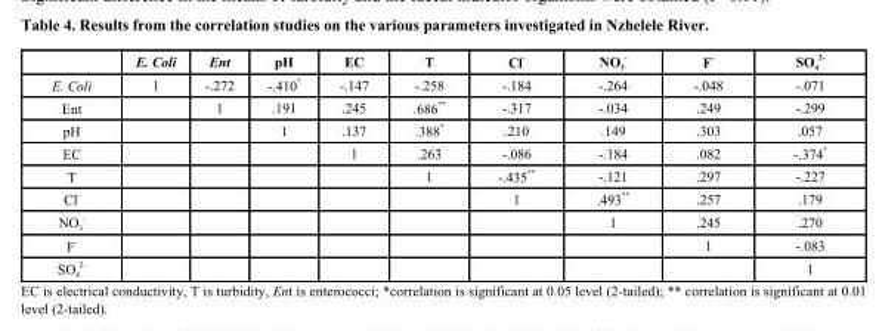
<table><thead><tr><td></td><td>E. Coli</td><td>Ent</td><td>pH</td><td>EC</td><td>T</td><td>Cl <sup>-</sup></td><td>NO<sub>3</sub> <sup>-</sup></td><td>F <sup>-</sup></td><td>SO<sub>4</sub> <sup>2-</sup></td></tr></thead><tbody><tr><td>E. Coli</td><td>1</td><td>-.272</td><td>-.410 *</td><td>-.147</td><td>-.258</td><td>-.184</td><td>-.264</td><td>-.048</td><td>-.071</td></tr><tr><td>Ent</td><td></td><td>1</td><td>.191</td><td>.245</td><td>.686 **</td><td>-.317</td><td>-.034</td><td>.249</td><td>-.299</td></tr><tr><td>pH</td><td></td><td></td><td>1</td><td>.137</td><td>.388 *</td><td>.210</td><td>.149</td><td>.303</td><td>.057</td></tr><tr><td>EC</td><td></td><td></td><td></td><td>1</td><td>.263</td><td>-.086</td><td>-.184</td><td>.082</td><td>-.374 *</td></tr><tr><td>T</td><td></td><td></td><td></td><td></td><td>1</td><td>-.435 **</td><td>-.121</td><td>.297</td><td>-.227</td></tr><tr><td>Cl <sup>-</sup></td><td></td><td></td><td></td><td></td><td></td><td>1</td><td>.493 **</td><td>.257</td><td>.179</td></tr><tr><td>NO<sub>3</sub> <sup>-</sup></td><td></td><td></td><td></td><td></td><td></td><td></td><td>1</td><td>.245</td><td>.270</td></tr><tr><td>F <sup>-</sup></td><td></td><td></td><td></td><td></td><td></td><td></td><td></td><td>1</td><td>-.083</td></tr><tr><td>SO<sub>4</sub> <sup>2-</sup></td><td></td><td></td><td></td><td></td><td></td><td></td><td></td><td></td><td>1</td></tr></tbody></table>